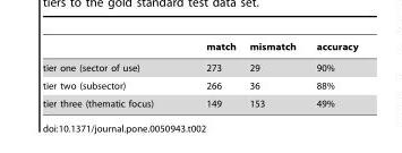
<table><thead><tr><td></td><td>match</td><td>mismatch</td><td>accuracy</td></tr></thead><tbody><tr><td>tier one (sector of use)</td><td>273</td><td>29</td><td>90%</td></tr><tr><td>tier two (subsector)</td><td>266</td><td>36</td><td>88%</td></tr><tr><td>tier three (thematic focus)</td><td>149</td><td>153</td><td>49%</td></tr></tbody></table>